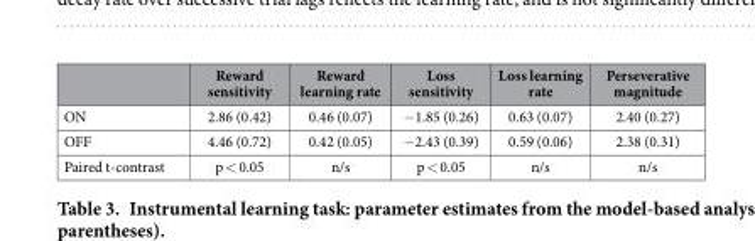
<table><thead><tr><td></td><td>Reward sensitivity</td><td>Reward learning rate</td><td>Loss sensitivity</td><td>Loss learning rate</td><td>Perseverative magnitude</td></tr></thead><tbody><tr><td>ON</td><td>2.86 (0.42)</td><td>0.46 (0.07)</td><td>− 1.85 (0.26)</td><td>0.63 (0.07)</td><td>2.40 (0.27)</td></tr><tr><td>OFF</td><td>4.46 (0.72)</td><td>0.42 (0.05)</td><td>− 2.43 (0.39)</td><td>0.59 (0.06)</td><td>2.38 (0.31)</td></tr><tr><td>Paired t-contrast</td><td>p &lt; 0.05</td><td>n/s</td><td>p &lt; 0.05</td><td>n/s</td><td>n/s</td></tr></tbody></table>